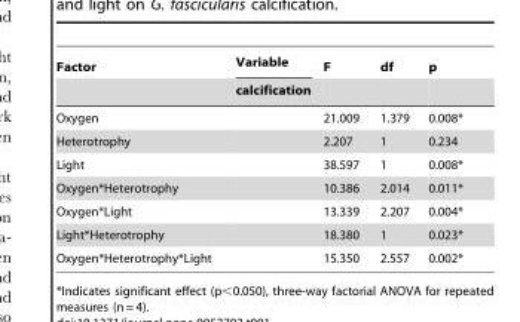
<table><thead><tr><td rowspan="2">Factor</td><td rowspan="2">Variable calcification</td><td rowspan="2">F</td><td rowspan="2">df</td><td rowspan="2">p</td></tr><tr></tr></thead><tbody><tr><td>Oxygen</td><td></td><td>21.009</td><td>1.379</td><td>0.008*</td></tr><tr><td>Heterotrophy</td><td></td><td>2.207</td><td>1</td><td>0.234</td></tr><tr><td>Light</td><td></td><td>38.597</td><td>1</td><td>0.008*</td></tr><tr><td>Oxygen*Heterotrophy</td><td></td><td>10.386</td><td>2.014</td><td>0.011*</td></tr><tr><td>Oxygen*Light</td><td></td><td>13.339</td><td>2.207</td><td>0.004*</td></tr><tr><td>Light*Heterotrophy</td><td></td><td>18.380</td><td>1</td><td>0.023*</td></tr><tr><td>Oxygen*Heterotrophy*Light</td><td></td><td>15.350</td><td>2.557</td><td>0.002*</td></tr></tbody></table>